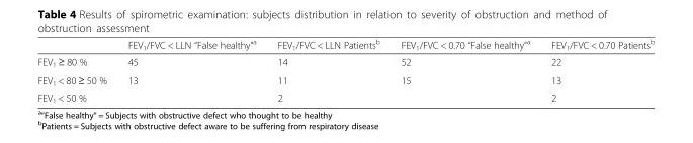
<table><thead><tr><td></td><td>FEV<sub>1</sub>/FVC &lt; LLN “False healthy”<sup>a</sup></td><td>FEV<sub>1</sub>/FVC &lt; LLN Patients<sup>b</sup></td><td>FEV<sub>1</sub>/FVC &lt; 0.70 “False healthy”<sup>a</sup></td><td>FEV<sub>1</sub>/FVC &lt; 0.70 Patients<sup>b</sup></td></tr></thead><tbody><tr><td>FEV<sub>1</sub> ≥ 80 %</td><td>45</td><td>14</td><td>52</td><td>22</td></tr><tr><td>FEV<sub>1</sub> &lt; 80 ≥ 50 %</td><td>13</td><td>11</td><td>15</td><td>13</td></tr><tr><td>FEV<sub>1</sub> &lt; 50 %</td><td></td><td>2</td><td></td><td>2</td></tr></tbody></table>